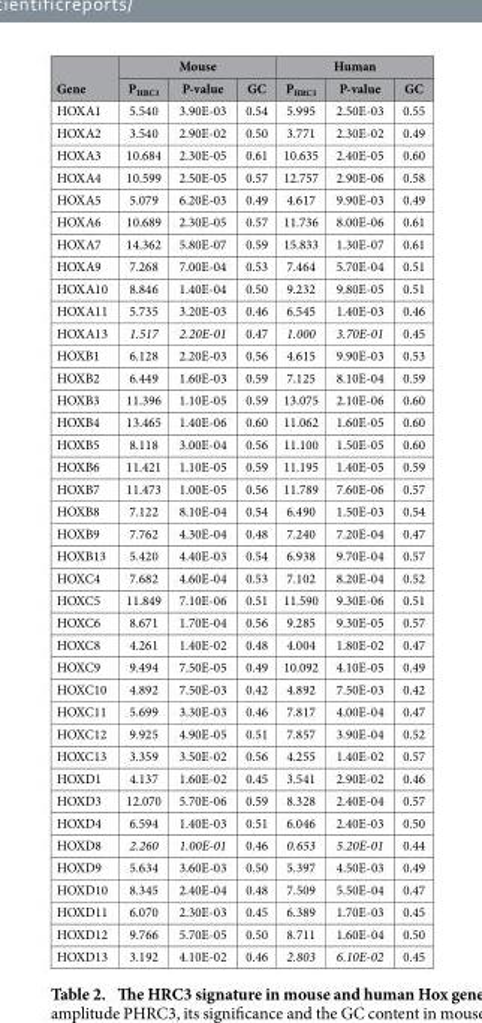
<table><thead><tr><td rowspan="2">Gene</td><td colspan="3">Mouse</td><td colspan="3">Human</td></tr><tr><td>P<sub>HRC3</sub></td><td>P-value</td><td>GC</td><td>P<sub>HRC3</sub></td><td>P-value</td><td>GC</td></tr></thead><tbody><tr><td>HOXA1</td><td>5.540</td><td>3.90E-03</td><td>0.54</td><td>5.995</td><td>2.50E-03</td><td>0.55</td></tr><tr><td>HOXA2</td><td>3.540</td><td>2.90E-02</td><td>0.50</td><td>3.771</td><td>2.30E-02</td><td>0.49</td></tr><tr><td>HOXA3</td><td>10.684</td><td>2.30E-05</td><td>0.61</td><td>10.635</td><td>2.40E-05</td><td>0.60</td></tr><tr><td>HOXA4</td><td>10.599</td><td>2.50E-05</td><td>0.57</td><td>12.757</td><td>2.90E-06</td><td>0.58</td></tr><tr><td>HOXA5</td><td>5.079</td><td>6.20E-03</td><td>0.49</td><td>4.617</td><td>9.90E-03</td><td>0.49</td></tr><tr><td>HOXA6</td><td>10.689</td><td>2.30E-05</td><td>0.57</td><td>11.736</td><td>8.00E-06</td><td>0.61</td></tr><tr><td>HOXA7</td><td>14.362</td><td>5.80E-07</td><td>0.59</td><td>15.833</td><td>1.30E-07</td><td>0.61</td></tr><tr><td>HOXA9</td><td>7.268</td><td>7.00E-04</td><td>0.53</td><td>7.464</td><td>5.70E-04</td><td>0.51</td></tr><tr><td>HOXA10</td><td>8.846</td><td>1.40E-04</td><td>0.50</td><td>9.232</td><td>9.80E-05</td><td>0.51</td></tr><tr><td>HOXA11</td><td>5.735</td><td>3.20E-03</td><td>0.46</td><td>6.545</td><td>1.40E-03</td><td>0.46</td></tr><tr><td>HOXA13</td><td>1.517</td><td>2.20E-01</td><td>0.47</td><td>1.000</td><td>3.70E-01</td><td>0.45</td></tr><tr><td>HOXB1</td><td>6.128</td><td>2.20E-03</td><td>0.56</td><td>4.615</td><td>9.90E-03</td><td>0.53</td></tr><tr><td>HOXB2</td><td>6.449</td><td>1.60E-03</td><td>0.59</td><td>7.125</td><td>8.10E-04</td><td>0.59</td></tr><tr><td>HOXB3</td><td>11.396</td><td>1.10E-05</td><td>0.59</td><td>13.075</td><td>2.10E-06</td><td>0.60</td></tr><tr><td>HOXB4</td><td>13.465</td><td>1.40E-06</td><td>0.60</td><td>11.062</td><td>1.60E-05</td><td>0.60</td></tr><tr><td>HOXB5</td><td>8.118</td><td>3.00E-04</td><td>0.56</td><td>11.100</td><td>1.50E-05</td><td>0.60</td></tr><tr><td>HOXB6</td><td>11.421</td><td>1.10E-05</td><td>0.59</td><td>11.195</td><td>1.40E-05</td><td>0.59</td></tr><tr><td>HOXB7</td><td>11.473</td><td>1.00E-05</td><td>0.56</td><td>11.789</td><td>7.60E-06</td><td>0.57</td></tr><tr><td>HOXB8</td><td>7.122</td><td>8.10E-04</td><td>0.54</td><td>6.490</td><td>1.50E-03</td><td>0.54</td></tr><tr><td>HOXB9</td><td>7.762</td><td>4.30E-04</td><td>0.48</td><td>7.240</td><td>7.20E-04</td><td>0.47</td></tr><tr><td>HOXB13</td><td>5.420</td><td>4.40E-03</td><td>0.54</td><td>6.938</td><td>9.70E-04</td><td>0.57</td></tr><tr><td>HOXC4</td><td>7.682</td><td>4.60E-04</td><td>0.53</td><td>7.102</td><td>8.20E-04</td><td>0.52</td></tr><tr><td>HOXC5</td><td>11.849</td><td>7.10E-06</td><td>0.51</td><td>11.590</td><td>9.30E-06</td><td>0.51</td></tr><tr><td>HOXC6</td><td>8.671</td><td>1.70E-04</td><td>0.56</td><td>9.285</td><td>9.30E-05</td><td>0.57</td></tr><tr><td>HOXC8</td><td>4.261</td><td>1.40E-02</td><td>0.48</td><td>4.004</td><td>1.80E-02</td><td>0.47</td></tr><tr><td>HOXC9</td><td>9.494</td><td>7.50E-05</td><td>0.49</td><td>10.092</td><td>4.10E-05</td><td>0.49</td></tr><tr><td>HOXC10</td><td>4.892</td><td>7.50E-03</td><td>0.42</td><td>4.892</td><td>7.50E-03</td><td>0.42</td></tr><tr><td>HOXC11</td><td>5.699</td><td>3.30E-03</td><td>0.46</td><td>7.817</td><td>4.00E-04</td><td>0.47</td></tr><tr><td>HOXC12</td><td>9.925</td><td>4.90E-05</td><td>0.51</td><td>7.857</td><td>3.90E-04</td><td>0.52</td></tr><tr><td>HOXC13</td><td>3.359</td><td>3.50E-02</td><td>0.56</td><td>4.255</td><td>1.40E-02</td><td>0.57</td></tr><tr><td>HOXD1</td><td>4.137</td><td>1.60E-02</td><td>0.45</td><td>3.541</td><td>2.90E-02</td><td>0.46</td></tr><tr><td>HOXD3</td><td>12.070</td><td>5.70E-06</td><td>0.59</td><td>8.328</td><td>2.40E-04</td><td>0.57</td></tr><tr><td>HOXD4</td><td>6.594</td><td>1.40E-03</td><td>0.51</td><td>6.046</td><td>2.40E-03</td><td>0.50</td></tr><tr><td>HOXD8</td><td>2.260</td><td>1.00E-01</td><td>0.46</td><td>0.653</td><td>5.20E-01</td><td>0.44</td></tr><tr><td>HOXD9</td><td>5.634</td><td>3.60E-03</td><td>0.50</td><td>5.397</td><td>4.50E-03</td><td>0.49</td></tr><tr><td>HOXD10</td><td>8.345</td><td>2.40E-04</td><td>0.48</td><td>7.509</td><td>5.50E-04</td><td>0.47</td></tr><tr><td>HOXD11</td><td>6.070</td><td>2.30E-03</td><td>0.45</td><td>6.389</td><td>1.70E-03</td><td>0.45</td></tr><tr><td>HOXD12</td><td>9.766</td><td>5.70E-05</td><td>0.50</td><td>8.711</td><td>1.60E-04</td><td>0.50</td></tr><tr><td>HOXD13</td><td>3.192</td><td>4.10E-02</td><td>0.46</td><td>2.803</td><td>6.10E-02</td><td>0.45</td></tr></tbody></table>